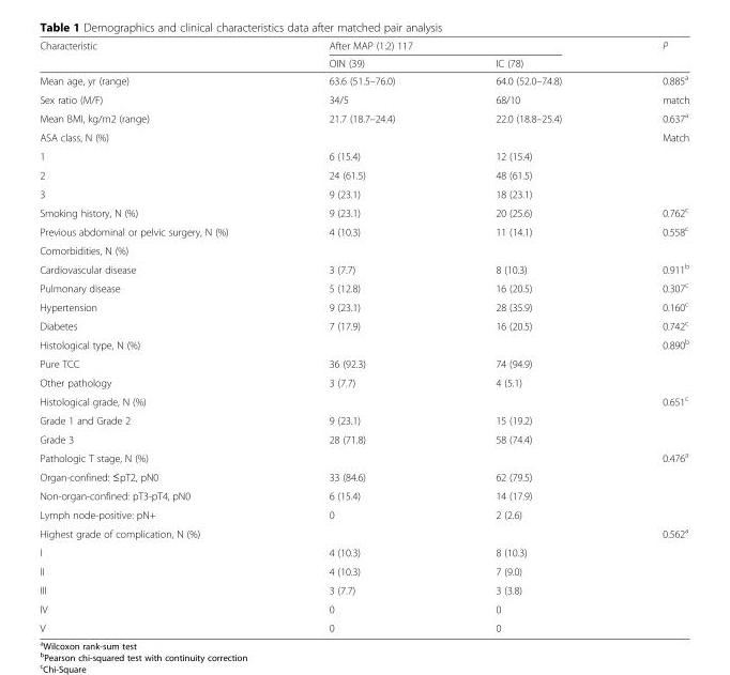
<table><thead><tr><td rowspan="2">Characteristic</td><td colspan="2">After MAP (1:2) 117</td><td rowspan="2">P</td></tr><tr><td>OIN (39)</td><td>IC (78)</td></tr></thead><tbody><tr><td>Mean age, yr (range)</td><td>63.6 (51.5–76.0)</td><td>64.0 (52.0–74.8)</td><td>0.885<sup>a</sup></td></tr><tr><td>Sex ratio (M/F)</td><td>34/5</td><td>68/10</td><td>match</td></tr><tr><td>Mean BMI, kg/m2 (range)</td><td>21.7 (18.7–24.4)</td><td>22.0 (18.8–25.4)</td><td>0.637<sup>a</sup></td></tr><tr><td>ASA class, N (%)</td><td></td><td></td><td>Match</td></tr><tr><td>1</td><td>6 (15.4)</td><td>12 (15.4)</td><td></td></tr><tr><td>2</td><td>24 (61.5)</td><td>48 (61.5)</td><td></td></tr><tr><td>3</td><td>9 (23.1)</td><td>18 (23.1)</td><td></td></tr><tr><td>Smoking history, N (%)</td><td>9 (23.1)</td><td>20 (25.6)</td><td>0.762<sup>c</sup></td></tr><tr><td>Previous abdominal or pelvic surgery, N (%)</td><td>4 (10.3)</td><td>11 (14.1)</td><td>0.558<sup>c</sup></td></tr><tr><td colspan="4">Comorbidities, N (%)</td></tr><tr><td>Cardiovascular disease</td><td>3 (7.7)</td><td>8 (10.3)</td><td>0.911<sup>b</sup></td></tr><tr><td>Pulmonary disease</td><td>5 (12.8)</td><td>16 (20.5)</td><td>0.307<sup>c</sup></td></tr><tr><td>Hypertension</td><td>9 (23.1)</td><td>28 (35.9)</td><td>0.160<sup>c</sup></td></tr><tr><td>Diabetes</td><td>7 (17.9)</td><td>16 (20.5)</td><td>0.742<sup>c</sup></td></tr><tr><td>Histological type, N (%)</td><td></td><td></td><td>0.890<sup>b</sup></td></tr><tr><td>Pure TCC</td><td>36 (92.3)</td><td>74 (94.9)</td><td></td></tr><tr><td>Other pathology</td><td>3 (7.7)</td><td>4 (5.1)</td><td></td></tr><tr><td>Histological grade, N (%)</td><td></td><td></td><td>0.651<sup>c</sup></td></tr><tr><td>Grade 1 and Grade 2</td><td>9 (23.1)</td><td>15 (19.2)</td><td></td></tr><tr><td>Grade 3</td><td>28 (71.8)</td><td>58 (74.4)</td><td></td></tr><tr><td>Pathologic T stage, N (%)</td><td></td><td></td><td>0.476<sup>a</sup></td></tr><tr><td>Organ-confined: ≤pT2, pN0</td><td>33 (84.6)</td><td>62 (79.5)</td><td></td></tr><tr><td>Non-organ-confined: pT3-pT4, pN0</td><td>6 (15.4)</td><td>14 (17.9)</td><td></td></tr><tr><td>Lymph node-positive: pN+</td><td>0</td><td>2 (2.6)</td><td></td></tr><tr><td>Highest grade of complication, N (%)</td><td></td><td></td><td>0.562<sup>a</sup></td></tr><tr><td>I</td><td>4 (10.3)</td><td>8 (10.3)</td><td></td></tr><tr><td>II</td><td>4 (10.3)</td><td>7 (9.0)</td><td></td></tr><tr><td>III</td><td>3 (7.7)</td><td>3 (3.8)</td><td></td></tr><tr><td>IV</td><td>0</td><td>0</td><td></td></tr><tr><td>V</td><td>0</td><td>0</td><td></td></tr></tbody></table>